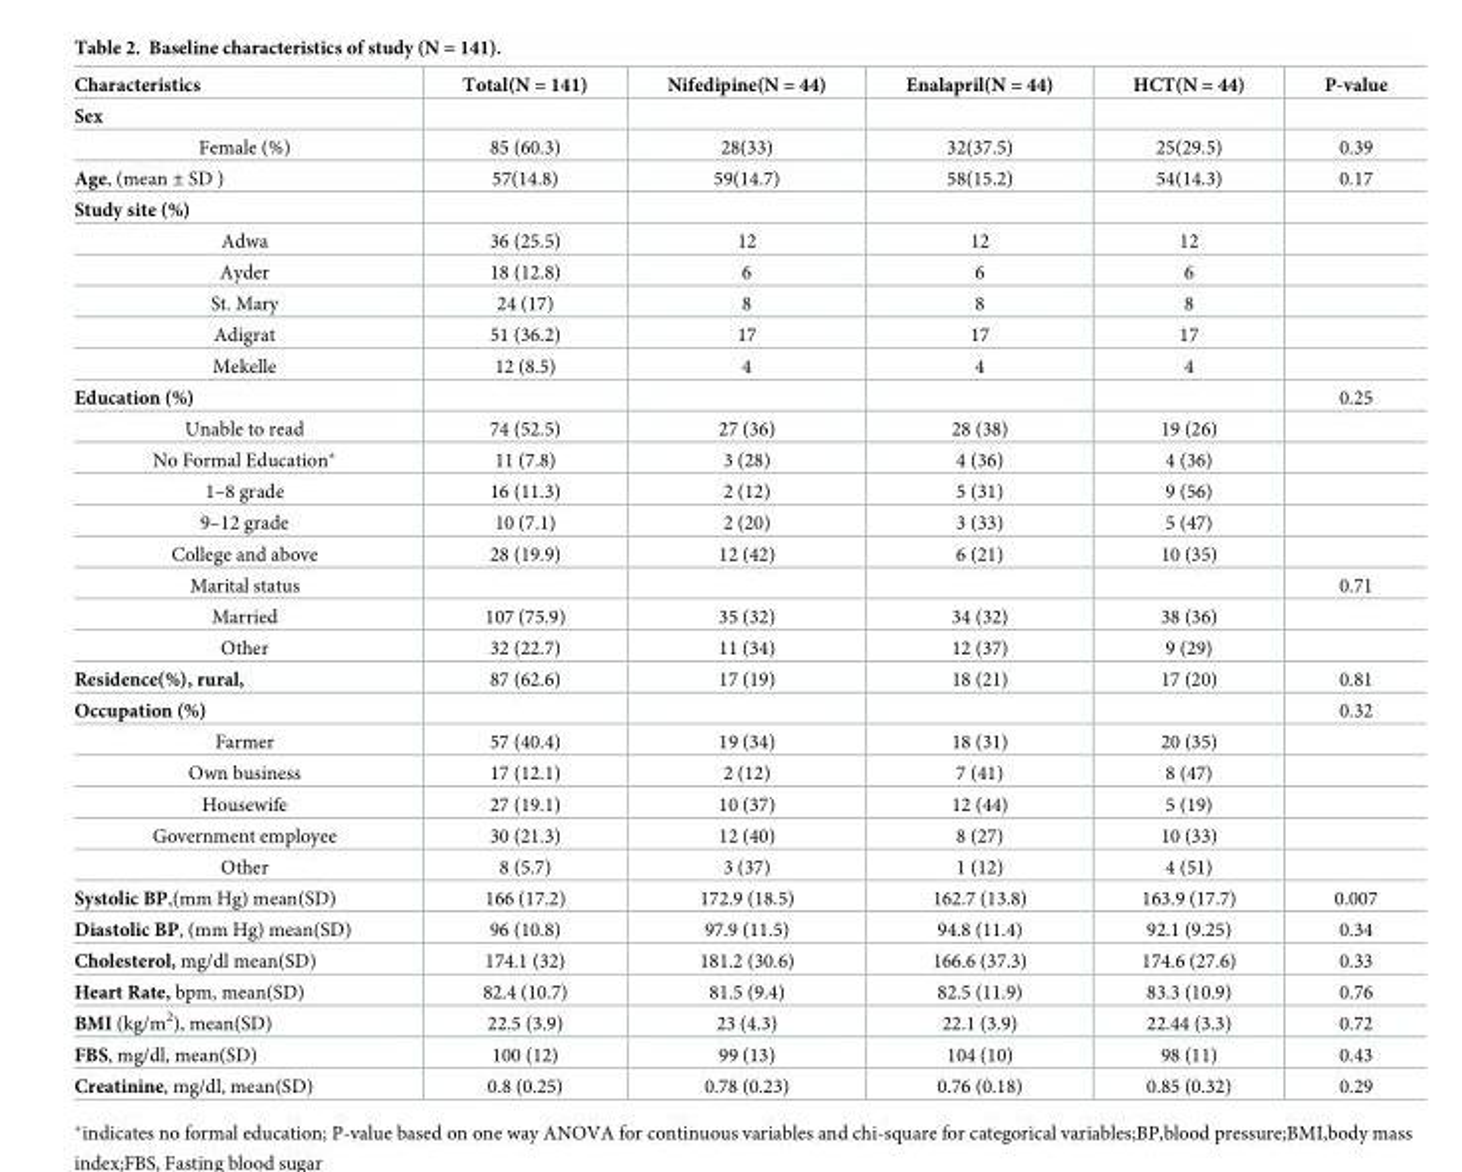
<table><thead><tr><td>Characteristics</td><td>Total(N = 141)</td><td>Nifedipine(N = 44)</td><td>Enalapril(N = 44)</td><td>HCT(N = 44)</td><td>P-value</td></tr></thead><tbody><tr><td colspan="6">Sex</td></tr><tr><td>Female (%)</td><td>85 (60.3)</td><td>28(33)</td><td>32(37.5)</td><td>25(29.5)</td><td>0.39</td></tr><tr><td>Age, (mean ± SD )</td><td>57(14.8)</td><td>59(14.7)</td><td>58(15.2)</td><td>54(14.3)</td><td>0.17</td></tr><tr><td colspan="6">Study site (%)</td></tr><tr><td>Adwa</td><td>36 (25.5)</td><td>12</td><td>12</td><td>12</td><td></td></tr><tr><td>Ayder</td><td>18 (12.8)</td><td>6</td><td>6</td><td>6</td><td></td></tr><tr><td>St. Mary</td><td>24 (17)</td><td>8</td><td>8</td><td>8</td><td></td></tr><tr><td>Adigrat</td><td>51 (36.2)</td><td>17</td><td>17</td><td>17</td><td></td></tr><tr><td>Mekelle</td><td>12 (8.5)</td><td>4</td><td>4</td><td>4</td><td></td></tr><tr><td>Education (%)</td><td></td><td></td><td></td><td></td><td>0.25</td></tr><tr><td>Unable to read</td><td>74 (52.5)</td><td>27 (36)</td><td>28 (38)</td><td>19 (26)</td><td></td></tr><tr><td>No Formal Education*</td><td>11 (7.8)</td><td>3 (28)</td><td>4 (36)</td><td>4 (36)</td><td></td></tr><tr><td>1–8 grade</td><td>16 (11.3)</td><td>2 (12)</td><td>5 (31)</td><td>9 (56)</td><td></td></tr><tr><td>9–12 grade</td><td>10 (7.1)</td><td>2 (20)</td><td>3 (33)</td><td>5 (47)</td><td></td></tr><tr><td>College and above</td><td>28 (19.9)</td><td>12 (42)</td><td>6 (21)</td><td>10 (35)</td><td></td></tr><tr><td>Marital status</td><td></td><td></td><td></td><td></td><td>0.71</td></tr><tr><td>Married</td><td>107 (75.9)</td><td>35 (32)</td><td>34 (32)</td><td>38 (36)</td><td></td></tr><tr><td>Other</td><td>32 (22.7)</td><td>11 (34)</td><td>12 (37)</td><td>9 (29)</td><td></td></tr><tr><td>Residence(%), rural,</td><td>87 (62.6)</td><td>17 (19)</td><td>18 (21)</td><td>17 (20)</td><td>0.81</td></tr><tr><td>Occupation (%)</td><td></td><td></td><td></td><td></td><td>0.32</td></tr><tr><td>Farmer</td><td>57 (40.4)</td><td>19 (34)</td><td>18 (31)</td><td>20 (35)</td><td></td></tr><tr><td>Own business</td><td>17 (12.1)</td><td>2 (12)</td><td>7 (41)</td><td>8 (47)</td><td></td></tr><tr><td>Housewife</td><td>27 (19.1)</td><td>10 (37)</td><td>12 (44)</td><td>5 (19)</td><td></td></tr><tr><td>Government employee</td><td>30 (21.3)</td><td>12 (40)</td><td>8 (27)</td><td>10 (33)</td><td></td></tr><tr><td>Other</td><td>8 (5.7)</td><td>3 (37)</td><td>1 (12)</td><td>4 (51)</td><td></td></tr><tr><td>Systolic BP,(mm Hg) mean(SD)</td><td>166 (17.2)</td><td>172.9 (18.5)</td><td>162.7 (13.8)</td><td>163.9 (17.7)</td><td>0.007</td></tr><tr><td>Diastolic BP, (mm Hg) mean(SD)</td><td>96 (10.8)</td><td>97.9 (11.5)</td><td>94.8 (11.4)</td><td>92.1 (9.25)</td><td>0.34</td></tr><tr><td>Cholesterol, mg/dl mean(SD)</td><td>174.1 (32)</td><td>181.2 (30.6)</td><td>166.6 (37.3)</td><td>174.6 (27.6)</td><td>0.33</td></tr><tr><td>Heart Rate, bpm, mean(SD)</td><td>82.4 (10.7)</td><td>81.5 (9.4)</td><td>82.5 (11.9)</td><td>83.3 (10.9)</td><td>0.76</td></tr><tr><td>BMI (kg/m<sup>2</sup>), mean(SD)</td><td>22.5 (3.9)</td><td>23 (4.3)</td><td>22.1 (3.9)</td><td>22.44 (3.3)</td><td>0.72</td></tr><tr><td>FBS, mg/dl, mean(SD)</td><td>100 (12)</td><td>99 (13)</td><td>104 (10)</td><td>98 (11)</td><td>0.43</td></tr><tr><td>Creatinine, mg/dl, mean(SD)</td><td>0.8 (0.25)</td><td>0.78 (0.23)</td><td>0.76 (0.18)</td><td>0.85 (0.32)</td><td>0.29</td></tr></tbody></table>